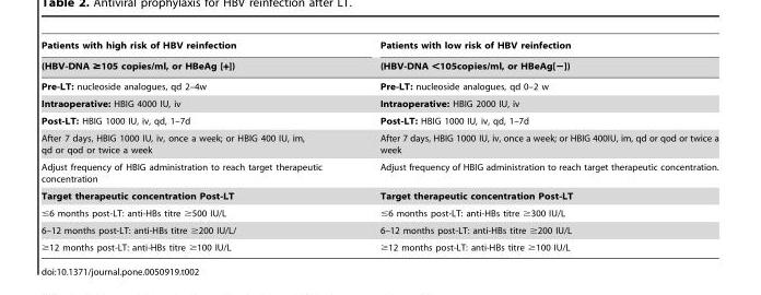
<table><thead><tr><td rowspan="2">Patients with high risk of HBV reinfection (HBV-DNA ≥105 copies/ml, or HBeAg [+])</td><td rowspan="2">Patients with low risk of HBV reinfection (HBV-DNA &lt;105copies/ml, or HBeAg[−])</td></tr><tr></tr></thead><tbody><tr><td>Pre-LT: nucleoside analogues, qd 2–4w</td><td>Pre-LT: nucleoside analogues, qd 0–2 w</td></tr><tr><td>Intraoperative: HBIG 4000 IU, iv</td><td>Intraoperative: HBIG 2000 IU, iv</td></tr><tr><td>Post-LT: HBIG 1000 IU, iv, qd, 1–7d</td><td>Post-LT: HBIG 1000 IU, iv, qd, 1–7d</td></tr><tr><td>After 7 days, HBIG 1000 IU, iv, once a week; or HBIG 400 IU, im, qd or qod or twice a week</td><td>After 7 days, HBIG 1000 IU, iv, once a week; or HBIG 400IU, im, qd or qod or twice a week</td></tr><tr><td>Adjust frequency of HBIG administration to reach target therapeutic concentration</td><td>Adjust frequency of HBIG administration to reach target therapeutic concentration.</td></tr><tr><td>Target therapeutic concentration Post-LT</td><td>Target therapeutic concentration Post-LT</td></tr><tr><td>≤6 months post-LT: anti-HBs titre ≥500 IU/L</td><td>≤6 months post-LT: anti-HBs titre ≥300 IU/L</td></tr><tr><td>6–12 months post-LT: anti-HBs titre ≥200 IU/L/</td><td>6–12 months post-LT: anti-HBs titre ≥200 IU/L</td></tr><tr><td>≥12 months post-LT: anti-HBs titre ≥100 IU/L</td><td>≥12 months post-LT: anti-HBs titre ≥100 IU/L</td></tr></tbody></table>